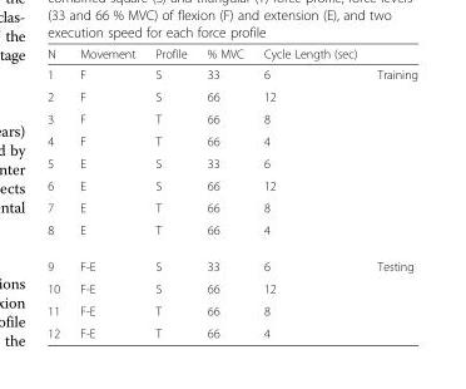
<table><thead><tr><td>N</td><td>Movement</td><td>Profile</td><td>% MVC</td><td>Cycle Length (sec)</td><td></td></tr></thead><tbody><tr><td>1</td><td>F</td><td>S</td><td>33</td><td>6</td><td rowspan="8">Training</td></tr><tr><td>2</td><td>F</td><td>S</td><td>66</td><td>12</td></tr><tr><td>3</td><td>F</td><td>T</td><td>66</td><td>8</td></tr><tr><td>4</td><td>F</td><td>T</td><td>66</td><td>4</td></tr><tr><td>5</td><td>E</td><td>S</td><td>33</td><td>6</td></tr><tr><td>6</td><td>E</td><td>S</td><td>66</td><td>12</td></tr><tr><td>7</td><td>E</td><td>T</td><td>66</td><td>8</td></tr><tr><td>8</td><td>E</td><td>T</td><td>66</td><td>4</td></tr><tr><td>9</td><td>F-E</td><td>S</td><td>33</td><td>6</td><td rowspan="4">Testing</td></tr><tr><td>10</td><td>F-E</td><td>S</td><td>66</td><td>12</td></tr><tr><td>11</td><td>F-E</td><td>T</td><td>66</td><td>8</td></tr><tr><td>12</td><td>F-E</td><td>T</td><td>66</td><td>4</td></tr></tbody></table>